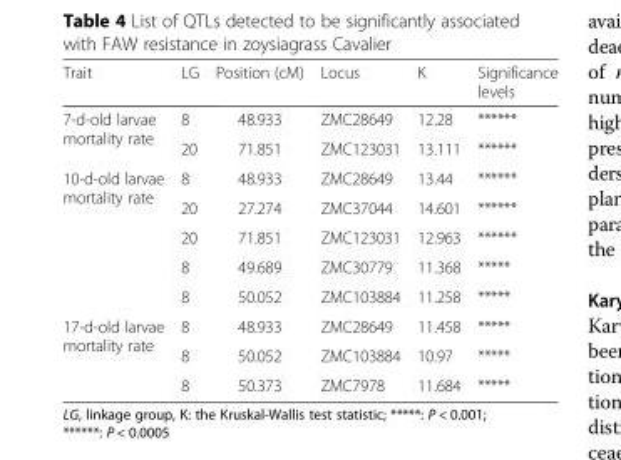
<table><thead><tr><td>Trait</td><td>LG</td><td>Position (cM)</td><td>Locus</td><td>K</td><td>Significance levels</td></tr></thead><tbody><tr><td rowspan="2">7-d-old larvae mortality rate</td><td>8</td><td>48.933</td><td>ZMC28649</td><td>12.28</td><td>******</td></tr><tr><td>20</td><td>71.851</td><td>ZMC123031</td><td>13.111</td><td>******</td></tr><tr><td rowspan="5">10-d-old larvae mortality rate</td><td>8</td><td>48.933</td><td>ZMC28649</td><td>13.44</td><td>******</td></tr><tr><td>20</td><td>27.274</td><td>ZMC37044</td><td>14.601</td><td>******</td></tr><tr><td>20</td><td>71.851</td><td>ZMC123031</td><td>12.963</td><td>******</td></tr><tr><td>8</td><td>49.689</td><td>ZMC30779</td><td>11.368</td><td>*****</td></tr><tr><td>8</td><td>50.052</td><td>ZMC103884</td><td>11.258</td><td>*****</td></tr><tr><td rowspan="3">17-d-old larvae mortality rate</td><td>8</td><td>48.933</td><td>ZMC28649</td><td>11.458</td><td>*****</td></tr><tr><td>8</td><td>50.052</td><td>ZMC103884</td><td>10.97</td><td>*****</td></tr><tr><td>8</td><td>50.373</td><td>ZMC7978</td><td>11.684</td><td>*****</td></tr></tbody></table>